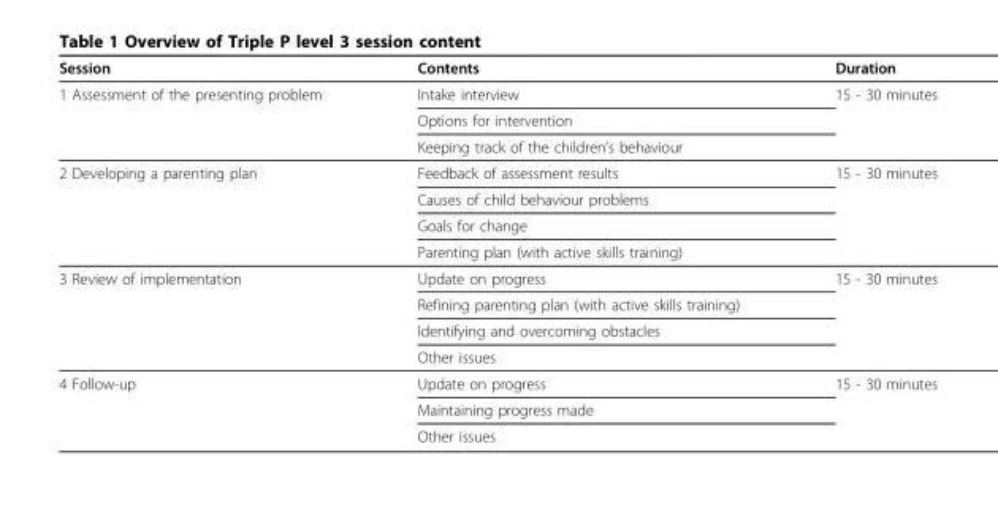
<table><thead><tr><td>Session</td><td>Contents</td><td>Duration</td></tr></thead><tbody><tr><td rowspan="3">1 Assessment of the presenting problem</td><td>Intake interview</td><td>15 - 30 minutes</td></tr><tr><td>Options for intervention</td><td></td></tr><tr><td>Keeping track of the children’s behaviour</td><td></td></tr><tr><td rowspan="4">2 Developing a parenting plan</td><td>Feedback of assessment results</td><td>15 - 30 minutes</td></tr><tr><td>Causes of child behaviour problems</td><td></td></tr><tr><td>Goals for change</td><td></td></tr><tr><td>Parenting plan (with active skills training)</td><td></td></tr><tr><td rowspan="4">3 Review of implementation</td><td>Update on progress</td><td>15 - 30 minutes</td></tr><tr><td>Refining parenting plan (with active skills training)</td><td></td></tr><tr><td>Identifying and overcoming obstacles</td><td></td></tr><tr><td>Other issues</td><td></td></tr><tr><td rowspan="3">4 Follow-up</td><td>Update on progress</td><td>15 - 30 minutes</td></tr><tr><td>Maintaining progress made</td><td></td></tr><tr><td>Other issues</td><td></td></tr></tbody></table>